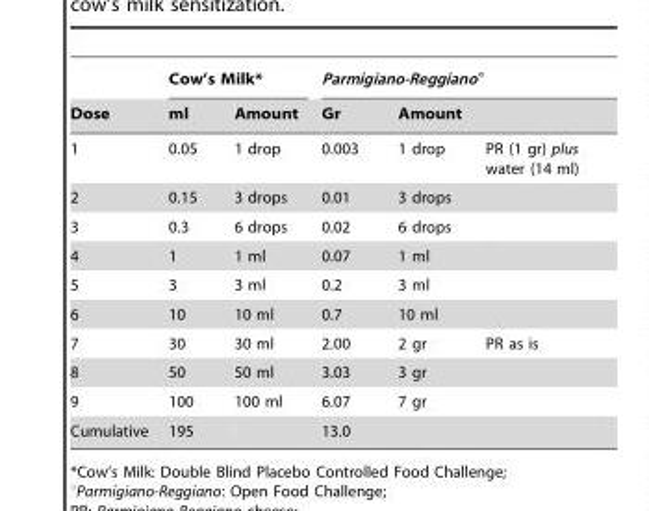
<table><thead><tr><td rowspan="3">Dose 1</td><td colspan="2">Cow’s Milk*</td><td colspan="3">Parmigiano-Reggiano°</td></tr><tr><td rowspan="2">ml 0.05</td><td rowspan="2">Amount 1 drop</td><td rowspan="2">Gr 0.003</td><td colspan="2">Amount</td></tr><tr><td>1 drop</td><td>PR (1 gr) plus water (14 ml)</td></tr></thead><tbody><tr><td>2</td><td>0.15</td><td>3 drops</td><td>0.01</td><td>3 drops</td><td></td></tr><tr><td>3</td><td>0.3</td><td>6 drops</td><td>0.02</td><td>6 drops</td><td></td></tr><tr><td>4</td><td>1</td><td>1 ml</td><td>0.07</td><td>1 ml</td><td></td></tr><tr><td>5</td><td>3</td><td>3 ml</td><td>0.2</td><td>3 ml</td><td></td></tr><tr><td>6</td><td>10</td><td>10 ml</td><td>0.7</td><td>10 ml</td><td></td></tr><tr><td>7</td><td>30</td><td>30 ml</td><td>2.00</td><td>2 gr</td><td>PR as is</td></tr><tr><td>8</td><td>50</td><td>50 ml</td><td>3.03</td><td>3 gr</td><td></td></tr><tr><td>9</td><td>100</td><td>100 ml</td><td>6.07</td><td>7 gr</td><td></td></tr><tr><td>Cumulative</td><td>195</td><td></td><td>13.0</td><td colspan="2"></td></tr></tbody></table>